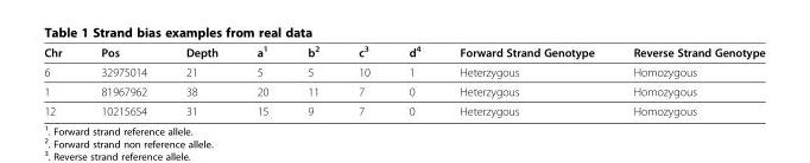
<table><thead><tr><td>Chr</td><td>Pos</td><td>Depth</td><td>a<sup>1</sup></td><td>b<sup>2</sup></td><td>c<sup>3</sup></td><td>d<sup>4</sup></td><td>Forward Strand Genotype</td><td>Reverse Strand Genotype</td></tr></thead><tbody><tr><td>6</td><td>32975014</td><td>21</td><td>5</td><td>5</td><td>10</td><td>1</td><td>Heterzygous</td><td>Homozygous</td></tr><tr><td>1</td><td>81967962</td><td>38</td><td>20</td><td>11</td><td>7</td><td>0</td><td>Heterzygous</td><td>Homozygous</td></tr><tr><td>12</td><td>10215654</td><td>31</td><td>15</td><td>9</td><td>7</td><td>0</td><td>Heterzygous</td><td>Homozygous</td></tr></tbody></table>